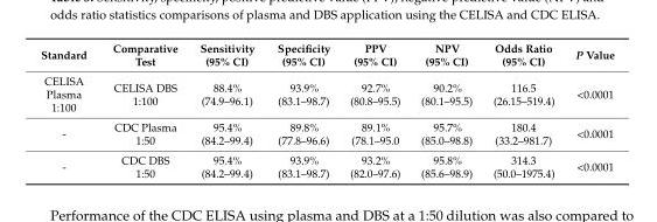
<table><thead><tr><td>Standard</td><td>Comparative Test</td><td>Sensitivity (95% CI)</td><td>Specificity (95% CI)</td><td>PPV (95% CI)</td><td>NPV (95% CI)</td><td>Odds Ratio (95% CI)</td><td>P Value</td></tr></thead><tbody><tr><td>CELISA Plasma 1:100</td><td>CELISA DBS 1:100</td><td>88.4% (74.9–96.1)</td><td>93.9% (83.1–98.7)</td><td>92.7% (80.8–95.5)</td><td>90.2% (80.1–95.5)</td><td>116.5 (26.15–519.4)</td><td>&lt;0.0001</td></tr><tr><td>-</td><td>CDC Plasma 1:50</td><td>95.4% (84.2–99.4)</td><td>89.8% (77.8–96.6)</td><td>89.1% (78.1–95.0</td><td>95.7% (85.0–98.8)</td><td>180.4 (33.2–981.7)</td><td>&lt;0.0001</td></tr><tr><td>-</td><td>CDC DBS 1:50</td><td>95.4% (84.2–99.4)</td><td>93.9% (83.1–98.7)</td><td>93.2% (82.0–97.6)</td><td>95.8% (85.6–98.9)</td><td>314.3 (50.0–1975.4)</td><td>&lt;0.0001</td></tr></tbody></table>